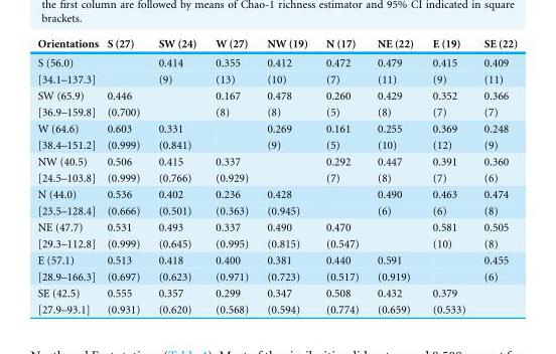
<table><thead><tr><td>Orientations</td><td>S (27)</td><td>SW (24)</td><td>W (27)</td><td>NW (19)</td><td>N (17)</td><td>NE (22)</td><td>E (19)</td><td>SE (22)</td></tr></thead><tbody><tr><td>S (56.0)</td><td></td><td>0.414</td><td>0.355</td><td>0.412</td><td>0.472</td><td>0.479</td><td>0.415</td><td>0.409</td></tr><tr><td>[34.1–137.3]</td><td></td><td>(9)</td><td>(13)</td><td>(10)</td><td>(7)</td><td>(11)</td><td>(9)</td><td>(11)</td></tr><tr><td>SW (65.9)</td><td>0.446</td><td></td><td>0.167</td><td>0.478</td><td>0.260</td><td>0.429</td><td>0.352</td><td>0.366</td></tr><tr><td>[36.9–159.8]</td><td>(0.700)</td><td></td><td>(8)</td><td>(8)</td><td>(5)</td><td>(8)</td><td>(7)</td><td>(7)</td></tr><tr><td>W (64.6)</td><td>0.603</td><td>0.331</td><td></td><td>0.269</td><td>0.161</td><td>0.255</td><td>0.369</td><td>0.248</td></tr><tr><td>[38.4–151.2]</td><td>(0.999)</td><td>(0.841)</td><td></td><td>(9)</td><td>(5)</td><td>(10)</td><td>(12)</td><td>(9)</td></tr><tr><td>NW (40.5)</td><td>0.506</td><td>0.415</td><td>0.337</td><td></td><td>0.292</td><td>0.447</td><td>0.391</td><td>0.360</td></tr><tr><td>[24.5–103.8]</td><td>(0.999)</td><td>(0.766)</td><td>(0.929)</td><td></td><td>(7)</td><td>(8)</td><td>(7)</td><td>(6)</td></tr><tr><td>N (44.0)</td><td>0.536</td><td>0.402</td><td>0.236</td><td>0.428</td><td></td><td>0.490</td><td>0.463</td><td>0.474</td></tr><tr><td>[23.5–128.4]</td><td>(0.666)</td><td>(0.501)</td><td>(0.363)</td><td>(0.945)</td><td></td><td>(6)</td><td>(6)</td><td>(8)</td></tr><tr><td>NE (47.7)</td><td>0.531</td><td>0.493</td><td>0.337</td><td>0.490</td><td>0.470</td><td></td><td>0.581</td><td>0.505</td></tr><tr><td>[29.3–112.8]</td><td>(0.999)</td><td>(0.645)</td><td>(0.995)</td><td>(0.815)</td><td>(0.547)</td><td></td><td>(10)</td><td>(8)</td></tr><tr><td>E (57.1)</td><td>0.513</td><td>0.418</td><td>0.400</td><td>0.381</td><td>0.440</td><td>0.591</td><td></td><td>0.455</td></tr><tr><td>[28.9–166.3]</td><td>(0.697)</td><td>(0.623)</td><td>(0.971)</td><td>(0.723)</td><td>(0.517)</td><td>(0.919)</td><td></td><td>(6)</td></tr><tr><td>SE (42.5)</td><td>0.555</td><td>0.357</td><td>0.299</td><td>0.347</td><td>0.508</td><td>0.432</td><td>0.379</td><td></td></tr><tr><td>[27.9–93.1]</td><td>(0.931)</td><td>(0.620)</td><td>(0.568)</td><td>(0.594)</td><td>(0.774)</td><td>(0.659)</td><td>(0.533)</td><td></td></tr></tbody></table>